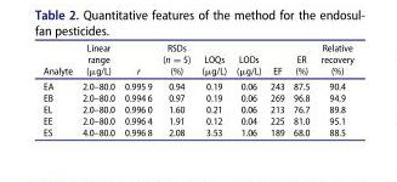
<table><thead><tr><td>Analyte</td><td>Linear range (µg/L)</td><td>r</td><td>RSDs (n = 5) (%)</td><td>LOQs (µg/L)</td><td>LODs (µg/L)</td><td>EF</td><td>ER (%)</td><td>Relative recovery (%)</td></tr></thead><tbody><tr><td>EA</td><td>2.0–80.0</td><td>0.995 9</td><td>0.94</td><td>0.19</td><td>0.06</td><td>243</td><td>87.5</td><td>90.4</td></tr><tr><td>EB</td><td>2.0–80.0</td><td>0.994 6</td><td>0.97</td><td>0.19</td><td>0.06</td><td>269</td><td>96.8</td><td>94.9</td></tr><tr><td>EL</td><td>2.0–80.0</td><td>0.996 0</td><td>1.60</td><td>0.21</td><td>0.06</td><td>213</td><td>76.7</td><td>89.8</td></tr><tr><td>EE</td><td>2.0–80.0</td><td>0.996 4</td><td>1.91</td><td>0.12</td><td>0.04</td><td>225</td><td>81.0</td><td>95.1</td></tr><tr><td>ES</td><td>4.0–80.0</td><td>0.996 8</td><td>2.08</td><td>3.53</td><td>1.06</td><td>189</td><td>68.0</td><td>88.5</td></tr></tbody></table>